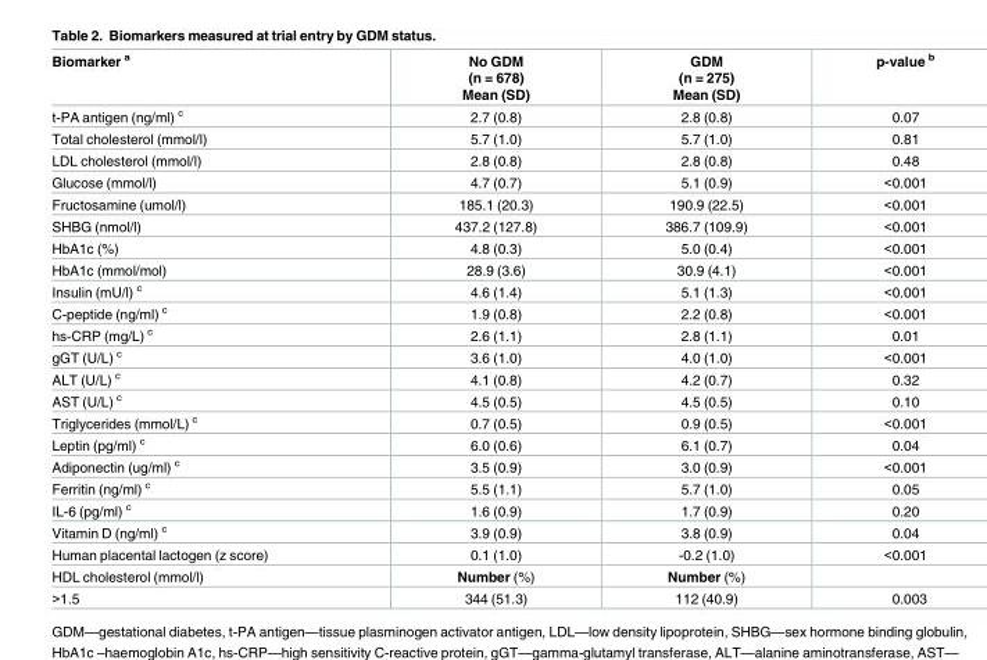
<table><thead><tr><td>Biomarker <sup>a</sup></td><td>No GDM (n = 678) Mean (SD)</td><td>GDM (n = 275) Mean (SD)</td><td>p-value <sup>b</sup></td></tr></thead><tbody><tr><td>t-PA antigen (ng/ml) <sup>c</sup></td><td>2.7 (0.8)</td><td>2.8 (0.8)</td><td>0.07</td></tr><tr><td>Total cholesterol (mmol/l)</td><td>5.7 (1.0)</td><td>5.7 (1.0)</td><td>0.81</td></tr><tr><td>LDL cholesterol (mmol/l)</td><td>2.8 (0.8)</td><td>2.8 (0.8)</td><td>0.48</td></tr><tr><td>Glucose (mmol/l)</td><td>4.7 (0.7)</td><td>5.1 (0.9)</td><td>&lt;0.001</td></tr><tr><td>Fructosamine (umol/l)</td><td>185.1 (20.3)</td><td>190.9 (22.5)</td><td>&lt;0.001</td></tr><tr><td>SHBG (nmol/l)</td><td>437.2 (127.8)</td><td>386.7 (109.9)</td><td>&lt;0.001</td></tr><tr><td>HbA1c (%)</td><td>4.8 (0.3)</td><td>5.0 (0.4)</td><td>&lt;0.001</td></tr><tr><td>HbA1c (mmol/mol)</td><td>28.9 (3.6)</td><td>30.9 (4.1)</td><td>&lt;0.001</td></tr><tr><td>Insulin (mU/l) <sup>c</sup></td><td>4.6 (1.4)</td><td>5.1 (1.3)</td><td>&lt;0.001</td></tr><tr><td>C-peptide (ng/ml) <sup>c</sup></td><td>1.9 (0.8)</td><td>2.2 (0.8)</td><td>&lt;0.001</td></tr><tr><td>hs-CRP (mg/L) <sup>c</sup></td><td>2.6 (1.1)</td><td>2.8 (1.1)</td><td>0.01</td></tr><tr><td>gGT (U/L) <sup>c</sup></td><td>3.6 (1.0)</td><td>4.0 (1.0)</td><td>&lt;0.001</td></tr><tr><td>ALT (U/L) <sup>c</sup></td><td>4.1 (0.8)</td><td>4.2 (0.7)</td><td>0.32</td></tr><tr><td>AST (U/L) <sup>c</sup></td><td>4.5 (0.5)</td><td>4.5 (0.5)</td><td>0.10</td></tr><tr><td>Triglycerides (mmol/L) <sup>c</sup></td><td>0.7 (0.5)</td><td>0.9 (0.5)</td><td>&lt;0.001</td></tr><tr><td>Leptin (pg/ml) <sup>c</sup></td><td>6.0 (0.6)</td><td>6.1 (0.7)</td><td>0.04</td></tr><tr><td>Adiponectin (ug/ml) <sup>c</sup></td><td>3.5 (0.9)</td><td>3.0 (0.9)</td><td>&lt;0.001</td></tr><tr><td>Ferritin (ng/ml) <sup>c</sup></td><td>5.5 (1.1)</td><td>5.7 (1.0)</td><td>0.05</td></tr><tr><td>IL-6 (pg/ml) <sup>c</sup></td><td>1.6 (0.9)</td><td>1.7 (0.9)</td><td>0.20</td></tr><tr><td>Vitamin D (ng/ml) <sup>c</sup></td><td>3.9 (0.9)</td><td>3.8 (0.9)</td><td>0.04</td></tr><tr><td>Human placental lactogen (z score)</td><td>0.1 (1.0)</td><td>-0.2 (1.0)</td><td>&lt;0.001</td></tr><tr><td>HDL cholesterol (mmol/l)</td><td>Number (%)</td><td>Number (%)</td><td></td></tr><tr><td>&gt;1.5</td><td>344 (51.3)</td><td>112 (40.9)</td><td>0.003</td></tr></tbody></table>